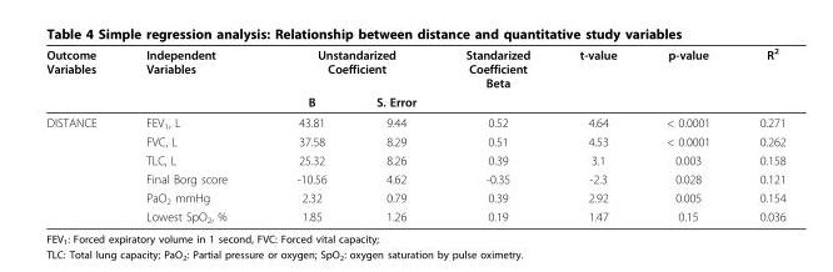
<table><thead><tr><td rowspan="2">Outcome Variables</td><td rowspan="2">Independent Variables</td><td colspan="2">Unstandarized Coefficient</td><td rowspan="2">Standarized Coefficient Beta</td><td rowspan="2">t-value</td><td rowspan="2">p-value</td><td rowspan="2">R<sup>2</sup></td></tr><tr><td>B</td><td>S. Error</td></tr></thead><tbody><tr><td rowspan="6">DISTANCE</td><td>FEV<sub>1</sub>, L</td><td>43.81</td><td>9.44</td><td>0.52</td><td>4.64</td><td>&lt; 0.0001</td><td>0.271</td></tr><tr><td>FVC, L</td><td>37.58</td><td>8.29</td><td>0.51</td><td>4.53</td><td>&lt; 0.0001</td><td>0.262</td></tr><tr><td>TLC, L</td><td>25.32</td><td>8.26</td><td>0.39</td><td>3.1</td><td>0.003</td><td>0.158</td></tr><tr><td>Final Borg score</td><td>-10.56</td><td>4.62</td><td>-0.35</td><td>-2.3</td><td>0.028</td><td>0.121</td></tr><tr><td>PaO<sub>2</sub> mmHg</td><td>2.32</td><td>0.79</td><td>0.39</td><td>2.92</td><td>0.005</td><td>0.154</td></tr><tr><td>Lowest SpO<sub>2</sub>, %</td><td>1.85</td><td>1.26</td><td>0.19</td><td>1.47</td><td>0.15</td><td>0.036</td></tr></tbody></table>